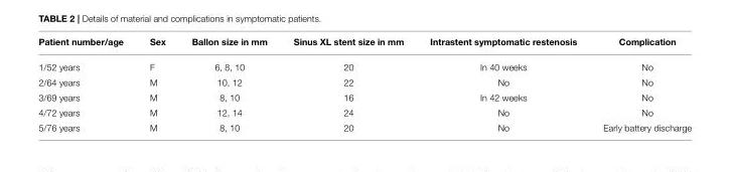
<table><thead><tr><td>Patient number/age</td><td>Sex</td><td>Ballon size in mm</td><td>Sinus XL stent size in mm</td><td>Intrastent symptomatic restenosis</td><td>Complication</td></tr></thead><tbody><tr><td>1/52 years</td><td>F</td><td>6, 8, 10</td><td>20</td><td>In 40 weeks</td><td>No</td></tr><tr><td>2/64 years</td><td>M</td><td>10, 12</td><td>22</td><td>No</td><td>No</td></tr><tr><td>3/69 years</td><td>M</td><td>8, 10</td><td>16</td><td>In 42 weeks</td><td>No</td></tr><tr><td>4/72 years</td><td>M</td><td>12, 14</td><td>24</td><td>No</td><td>No</td></tr><tr><td>5/76 years</td><td>M</td><td>8, 10</td><td>20</td><td>No</td><td>Early battery discharge</td></tr></tbody></table>